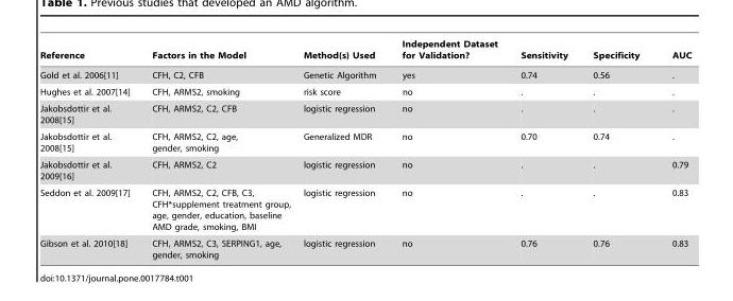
<table><thead><tr><td>Reference</td><td>Factors in the Model</td><td>Method(s) Used</td><td>Independent Dataset for Validation?</td><td>Sensitivity</td><td>Specificity</td><td>AUC</td></tr></thead><tbody><tr><td>Gold et al. 2006[11]</td><td>CFH, C2, CFB</td><td>Genetic Algorithm</td><td>yes</td><td>0.74</td><td>0.56</td><td>.</td></tr><tr><td>Hughes et al. 2007[14]</td><td>CFH, ARMS2, smoking</td><td>risk score</td><td>no</td><td>.</td><td>.</td><td>.</td></tr><tr><td>Jakobsdottir et al. 2008[15]</td><td>CFH, ARMS2, C2, CFB</td><td>logistic regression</td><td>no</td><td>.</td><td>.</td><td>.</td></tr><tr><td>Jakobsdottir et al. 2008[15]</td><td>CFH, ARMS2, C2, age, gender, smoking</td><td>Generalized MDR</td><td>no</td><td>0.70</td><td>0.74</td><td>.</td></tr><tr><td>Jakobsdottir et al. 2009[16]</td><td>CFH, ARMS2, C2</td><td>logistic regression</td><td>no</td><td>.</td><td>.</td><td>0.79</td></tr><tr><td>Seddon et al. 2009[17]</td><td>CFH, ARMS2, C2, CFB, C3, CFH*supplement treatment group, age, gender, education, baseline AMD grade, smoking, BMI</td><td>logistic regression</td><td>no</td><td>.</td><td>.</td><td>0.83</td></tr><tr><td>Gibson et al. 2010[18]</td><td>CFH, ARMS2, C3, SERPING1, age, gender, smoking</td><td>logistic regression</td><td>no</td><td>0.76</td><td>0.76</td><td>0.83</td></tr></tbody></table>